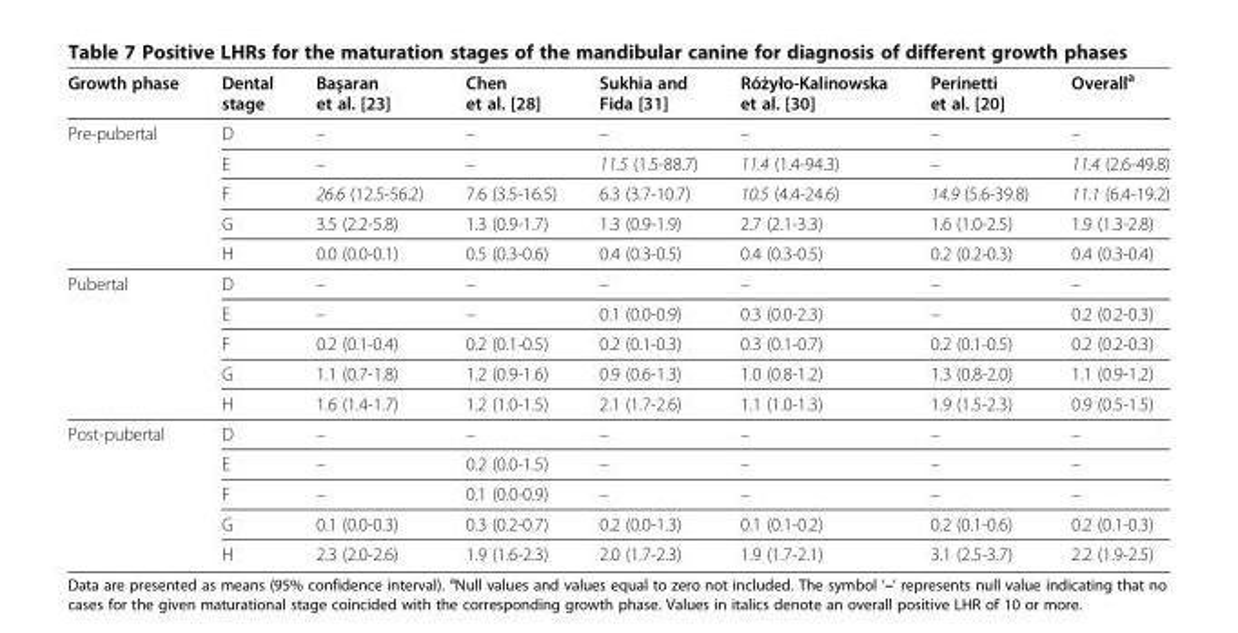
<table><thead><tr><td>Growth phase</td><td>Dental stage</td><td>Başaran et al. [23]</td><td>Chen et al. [28]</td><td>Sukhia and Fida [31]</td><td>Różyło-Kalinowska et al. [30]</td><td>Perinetti et al. [20]</td><td>Overall<sup>a</sup></td></tr></thead><tbody><tr><td rowspan="5">Pre-pubertal</td><td>D</td><td>–</td><td>–</td><td>–</td><td>–</td><td>–</td><td>–</td></tr><tr><td>E</td><td>–</td><td>–</td><td>11.5 (1.5-88.7)</td><td>11.4 (1.4-94.3)</td><td>–</td><td>11.4 (2.6-49.8)</td></tr><tr><td>F</td><td>26.6 (12.5-56.2)</td><td>7.6 (3.5-16.5)</td><td>6.3 (3.7-10.7)</td><td>10.5 (4.4-24.6)</td><td>14.9 (5.6-39.8)</td><td>11.1 (6.4-19.2)</td></tr><tr><td>G</td><td>3.5 (2.2-5.8)</td><td>1.3 (0.9-1.7)</td><td>1.3 (0.9-1.9)</td><td>2.7 (2.1-3.3)</td><td>1.6 (1.0-2.5)</td><td>1.9 (1.3-2.8)</td></tr><tr><td>H</td><td>0.0 (0.0-0.1)</td><td>0.5 (0.3-0.6)</td><td>0.4 (0.3-0.5)</td><td>0.4 (0.3-0.5)</td><td>0.2 (0.2-0.3)</td><td>0.4 (0.3-0.4)</td></tr><tr><td rowspan="5">Pubertal</td><td>D</td><td>–</td><td>–</td><td>–</td><td>–</td><td>–</td><td>–</td></tr><tr><td>E</td><td>–</td><td>–</td><td>0.1 (0.0-0.9)</td><td>0.3 (0.0-2.3)</td><td>–</td><td>0.2 (0.2-0.3)</td></tr><tr><td>F</td><td>0.2 (0.1-0.4)</td><td>0.2 (0.1-0.5)</td><td>0.2 (0.1-0.3)</td><td>0.3 (0.1-0.7)</td><td>0.2 (0.1-0.5)</td><td>0.2 (0.2-0.3)</td></tr><tr><td>G</td><td>1.1 (0.7-1.8)</td><td>1.2 (0.9-1.6)</td><td>0.9 (0.6-1.3)</td><td>1.0 (0.8-1.2)</td><td>1.3 (0.8-2.0)</td><td>1.1 (0.9-1.2)</td></tr><tr><td>H</td><td>1.6 (1.4-1.7)</td><td>1.2 (1.0-1.5)</td><td>2.1 (1.7-2.6)</td><td>1.1 (1.0-1.3)</td><td>1.9 (1.5-2.3)</td><td>0.9 (0.5-1.5)</td></tr><tr><td rowspan="5">Post-pubertal</td><td>D</td><td>–</td><td>–</td><td>–</td><td>–</td><td>–</td><td>–</td></tr><tr><td>E</td><td>–</td><td>0.2 (0.0-1.5)</td><td>–</td><td>–</td><td>–</td><td>–</td></tr><tr><td>F</td><td>–</td><td>0.1 (0.0-0.9)</td><td>–</td><td>–</td><td>–</td><td>–</td></tr><tr><td>G</td><td>0.1 (0.0-0.3)</td><td>0.3 (0.2-0.7)</td><td>0.2 (0.0-1.3)</td><td>0.1 (0.1-0.2)</td><td>0.2 (0.1-0.6)</td><td>0.2 (0.1-0.3)</td></tr><tr><td>H</td><td>2.3 (2.0-2.6)</td><td>1.9 (1.6-2.3)</td><td>2.0 (1.7-2.3)</td><td>1.9 (1.7-2.1)</td><td>3.1 (2.5-3.7)</td><td>2.2 (1.9-2.5)</td></tr></tbody></table>